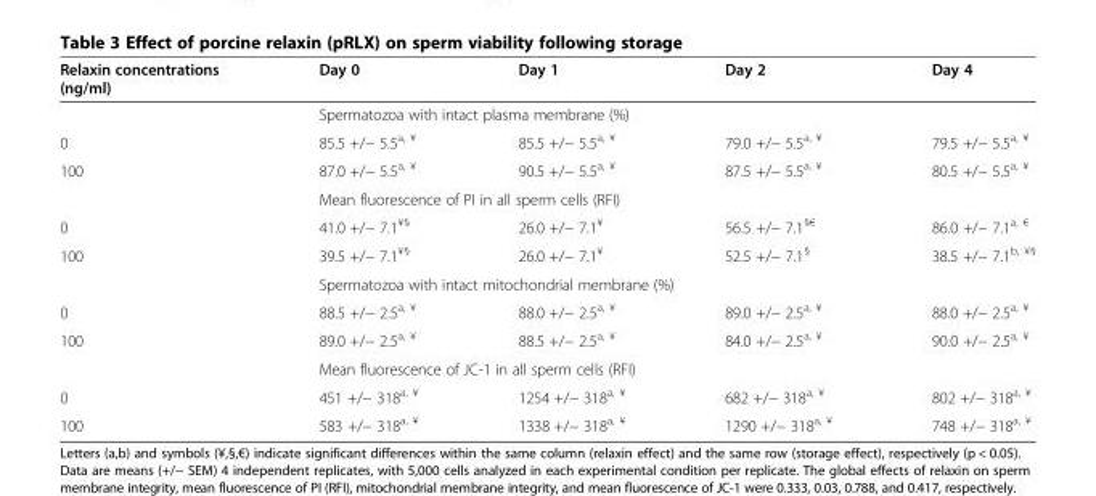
<table><thead><tr><td>Relaxin concentrations (ng/ml)</td><td>Day 0</td><td>Day 1</td><td>Day 2</td><td>Day 4</td></tr></thead><tbody><tr><td></td><td colspan="4">Spermatozoa with intact plasma membrane (%)</td></tr><tr><td>0</td><td>85.5 +/− 5.5<sup>a, ¥</sup></td><td>85.5 +/− 5.5<sup>a, ¥</sup></td><td>79.0 +/− 5.5<sup>a, ¥</sup></td><td>79.5 +/− 5.5<sup>a, ¥</sup></td></tr><tr><td rowspan="2">100</td><td>87.0 +/− 5.5<sup>a, ¥</sup></td><td>90.5 +/− 5.5<sup>a, ¥</sup></td><td>87.5 +/− 5.5<sup>a, ¥</sup></td><td>80.5 +/− 5.5<sup>a, ¥</sup></td></tr><tr><td colspan="4">Mean fluorescence of PI in all sperm cells (RFI)</td></tr><tr><td>0</td><td>41.0 +/− 7.1<sup>¥§</sup></td><td>26.0 +/− 7.1<sup>¥</sup></td><td>56.5 +/− 7.1<sup>§€</sup></td><td>86.0 +/− 7.1<sup>a, €</sup></td></tr><tr><td rowspan="2">100</td><td>39.5 +/− 7.1<sup>¥§</sup></td><td>26.0 +/− 7.1<sup>¥</sup></td><td>52.5 +/− 7.1<sup>§</sup></td><td>38.5 +/− 7.1<sup>b, ¥§</sup></td></tr><tr><td colspan="4">Spermatozoa with intact mitochondrial membrane (%)</td></tr><tr><td>0</td><td>88.5 +/− 2.5<sup>a, ¥</sup></td><td>88.0 +/− 2.5<sup>a, ¥</sup></td><td>89.0 +/− 2.5<sup>a, ¥</sup></td><td>88.0 +/− 2.5<sup>a, ¥</sup></td></tr><tr><td rowspan="2">100</td><td>89.0 +/− 2.5<sup>a, ¥</sup></td><td>88.5 +/− 2.5<sup>a, ¥</sup></td><td>84.0 +/− 2.5<sup>a, ¥</sup></td><td>90.0 +/− 2.5<sup>a, ¥</sup></td></tr><tr><td colspan="4">Mean fluorescence of JC-1 in all sperm cells (RFI)</td></tr><tr><td>0</td><td>451 +/− 318<sup>a, ¥</sup></td><td>1254 +/− 318<sup>a, ¥</sup></td><td>682 +/− 318<sup>a, ¥</sup></td><td>802 +/− 318<sup>a, ¥</sup></td></tr><tr><td>100</td><td>583 +/− 318<sup>a, ¥</sup></td><td>1338 +/− 318<sup>a, ¥</sup></td><td>1290 +/− 318<sup>a, ¥</sup></td><td>748 +/− 318<sup>a, ¥</sup></td></tr></tbody></table>